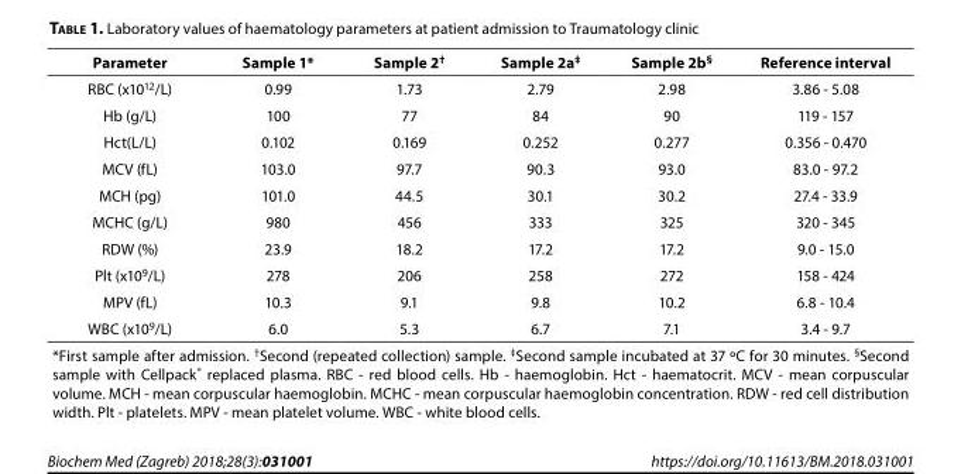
<table><thead><tr><td>Parameter</td><td>Sample 1*</td><td>Sample 2<sup>†</sup></td><td>Sample 2a<sup>‡</sup></td><td>Sample 2b<sup>§</sup></td><td>Reference interval</td></tr></thead><tbody><tr><td>RBC (x10<sup>12</sup>/L)</td><td>0.99</td><td>1.73</td><td>2.79</td><td>2.98</td><td>3.86 - 5.08</td></tr><tr><td>Hb (g/L)</td><td>100</td><td>77</td><td>84</td><td>90</td><td>119 - 157</td></tr><tr><td>Hct(L/L)</td><td>0.102</td><td>0.169</td><td>0.252</td><td>0.277</td><td>0.356 - 0.470</td></tr><tr><td>MCV (fL)</td><td>103.0</td><td>97.7</td><td>90.3</td><td>93.0</td><td>83.0 - 97.2</td></tr><tr><td>MCH (pg)</td><td>101.0</td><td>44.5</td><td>30.1</td><td>30.2</td><td>27.4 - 33.9</td></tr><tr><td>MCHC (g/L)</td><td>980</td><td>456</td><td>333</td><td>325</td><td>320 - 345</td></tr><tr><td>RDW (%)</td><td>23.9</td><td>18.2</td><td>17.2</td><td>17.2</td><td>9.0 - 15.0</td></tr><tr><td>Plt (x10<sup>9</sup>/L)</td><td>278</td><td>206</td><td>258</td><td>272</td><td>158 - 424</td></tr><tr><td>MPV (fL)</td><td>10.3</td><td>9.1</td><td>9.8</td><td>10.2</td><td>6.8 - 10.4</td></tr><tr><td>WBC (x10<sup>9</sup>/L)</td><td>6.0</td><td>5.3</td><td>6.7</td><td>7.1</td><td>3.4 - 9.7</td></tr><tr><td colspan="6">*First sample after admission. <sup>†</sup>Second (repeated collection) sample. <sup>‡</sup>Second sample incubated at 37 ºC for 30 minutes. <sup>§</sup>Second sample with Cellpack<sup>®</sup> replaced plasma. RBC - red blood cells. Hb - haemoglobin. Hct - haematocrit. MCV - mean corpuscular volume. MCH - mean corpuscular haemoglobin. MCHC - mean corpuscular haemoglobin concentration. RDW - red cell distribution width. Plt - platelets. MPV - mean platelet volume. WBC - white blood cells.</td></tr></tbody></table>